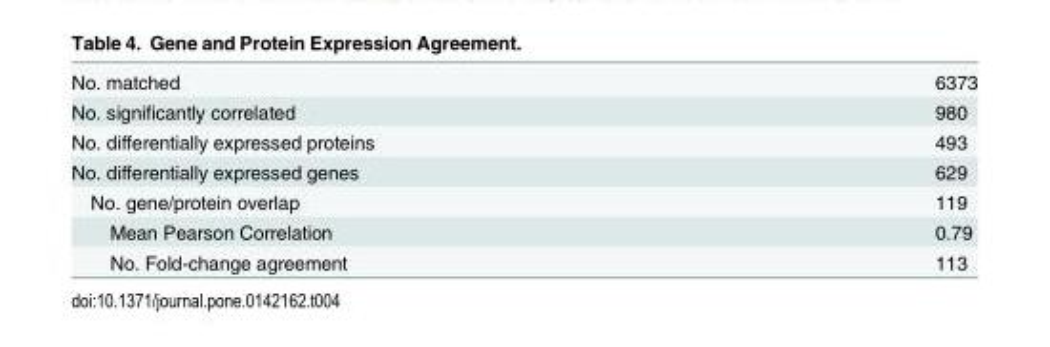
<table><tbody><tr><td>No. matched</td><td>6373</td></tr><tr><td>No. significantly correlated</td><td>980</td></tr><tr><td>No. differentially expressed proteins</td><td>493</td></tr><tr><td>No. differentially expressed genes</td><td>629</td></tr><tr><td>No. gene/protein overlap</td><td>119</td></tr><tr><td>Mean Pearson Correlation</td><td>0.79</td></tr><tr><td>No. Fold-change agreement</td><td>113</td></tr></tbody></table>